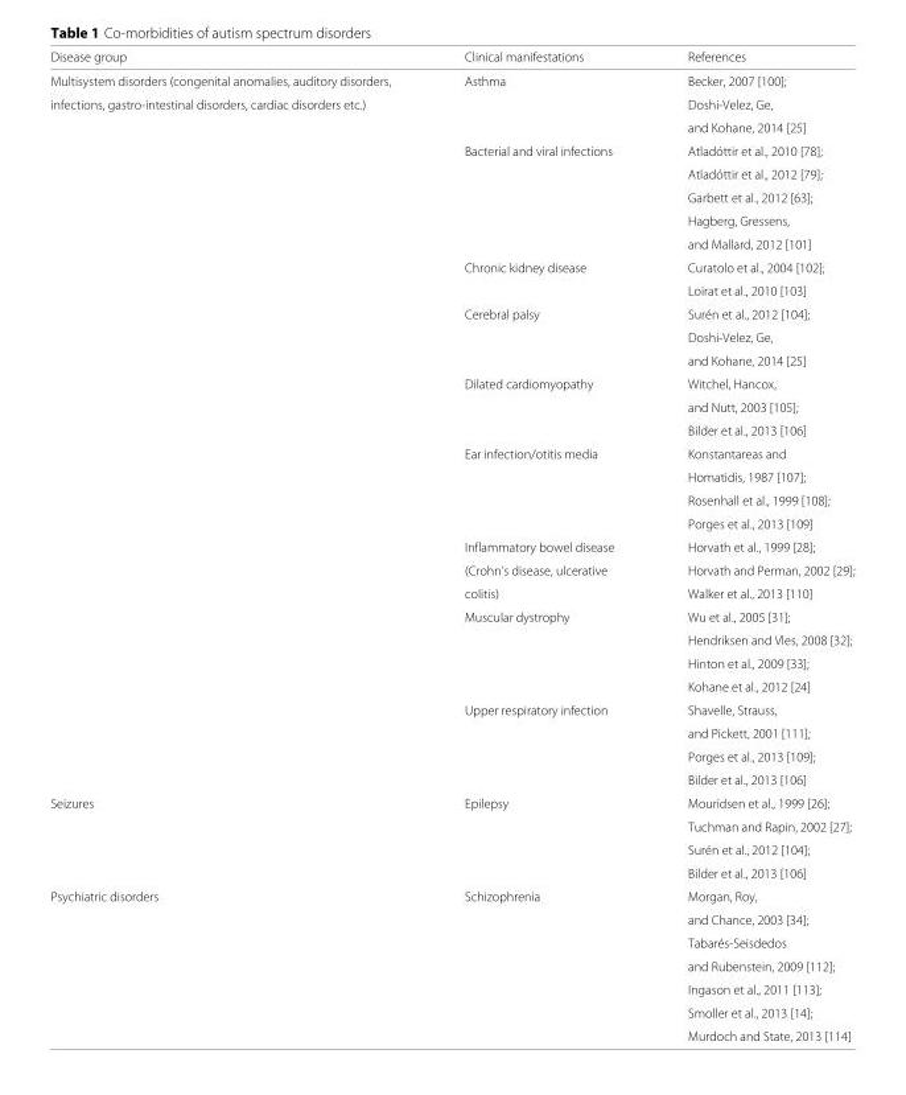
<table><thead><tr><td>Disease group</td><td>Clinical manifestations</td><td>References</td></tr></thead><tbody><tr><td>Multisystem disorders (congenital anomalies, auditory disorders,</td><td>Asthma</td><td>Becker, 2007 [100];</td></tr><tr><td rowspan="30">infections, gastro-intestinal disorders, cardiac disorders etc.)</td><td></td><td>Doshi-Velez, Ge,</td></tr><tr><td></td><td>and Kohane, 2014 [25]</td></tr><tr><td>Bacterial and viral infections</td><td>Atladóttir et al., 2010 [78];</td></tr><tr><td></td><td>Atladóttir et al., 2012 [79];</td></tr><tr><td></td><td>Garbett et al., 2012 [63];</td></tr><tr><td></td><td>Hagberg, Gressens,</td></tr><tr><td></td><td>and Mallard, 2012 [101]</td></tr><tr><td>Chronic kidney disease</td><td>Curatolo et al., 2004 [102];</td></tr><tr><td></td><td>Loirat et al., 2010 [103]</td></tr><tr><td>Cerebral palsy</td><td>Surén et al., 2012 [104];</td></tr><tr><td></td><td>Doshi-Velez, Ge,</td></tr><tr><td></td><td>and Kohane, 2014 [25]</td></tr><tr><td>Dilated cardiomyopathy</td><td>Witchel, Hancox,</td></tr><tr><td></td><td>and Nutt, 2003 [105];</td></tr><tr><td></td><td>Bilder et al., 2013 [106]</td></tr><tr><td>Ear infection/otitis media</td><td>Konstantareas and</td></tr><tr><td></td><td>Homatidis, 1987 [107];</td></tr><tr><td></td><td>Rosenhall et al., 1999 [108];</td></tr><tr><td></td><td>Porges et al., 2013 [109]</td></tr><tr><td>Inflammatory bowel disease</td><td>Horvath et al., 1999 [28];</td></tr><tr><td>(Crohn’s disease, ulcerative</td><td>Horvath and Perman, 2002 [29];</td></tr><tr><td>colitis)</td><td>Walker et al., 2013 [110]</td></tr><tr><td>Muscular dystrophy</td><td>Wu et al., 2005 [31];</td></tr><tr><td></td><td>Hendriksen and Vles, 2008 [32];</td></tr><tr><td></td><td>Hinton et al., 2009 [33];</td></tr><tr><td></td><td>Kohane et al., 2012 [24]</td></tr><tr><td>Upper respiratory infection</td><td>Shavelle, Strauss,</td></tr><tr><td></td><td>and Pickett, 2001 [111];</td></tr><tr><td></td><td>Porges et al., 2013 [109];</td></tr><tr><td></td><td>Bilder et al., 2013 [106]</td></tr><tr><td rowspan="4">Seizures</td><td>Epilepsy</td><td>Mouridsen et al., 1999 [26];</td></tr><tr><td></td><td>Tuchman and Rapin, 2002 [27];</td></tr><tr><td></td><td>Surén et al., 2012 [104];</td></tr><tr><td></td><td>Bilder et al., 2013 [106]</td></tr><tr><td rowspan="7">Psychiatric disorders</td><td>Schizophrenia</td><td>Morgan, Roy,</td></tr><tr><td></td><td>and Chance, 2003 [34];</td></tr><tr><td></td><td>Tabarés-Seisdedos</td></tr><tr><td></td><td>and Rubenstein, 2009 [112];</td></tr><tr><td></td><td>Ingason et al., 2011 [113];</td></tr><tr><td></td><td>Smoller et al., 2013 [14];</td></tr><tr><td></td><td>Murdoch and State, 2013 [114]</td></tr></tbody></table>